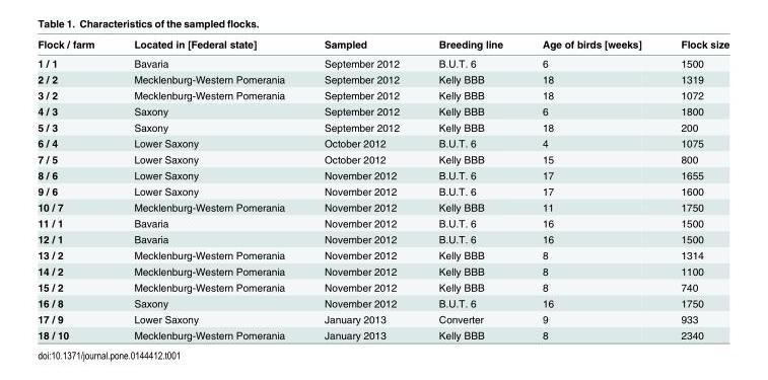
<table><thead><tr><td>Flock / farm</td><td>Located in [Federal state]</td><td>Sampled</td><td>Breeding line</td><td>Age of birds [weeks]</td><td>Flock size</td></tr></thead><tbody><tr><td>1 / 1</td><td>Bavaria</td><td>September 2012</td><td>B.U.T. 6</td><td>6</td><td>1500</td></tr><tr><td>2 / 2</td><td>Mecklenburg-Western Pomerania</td><td>September 2012</td><td>Kelly BBB</td><td>18</td><td>1319</td></tr><tr><td>3 / 2</td><td>Mecklenburg-Western Pomerania</td><td>September 2012</td><td>Kelly BBB</td><td>18</td><td>1072</td></tr><tr><td>4 / 3</td><td>Saxony</td><td>September 2012</td><td>Kelly BBB</td><td>6</td><td>1800</td></tr><tr><td>5 / 3</td><td>Saxony</td><td>September 2012</td><td>Kelly BBB</td><td>18</td><td>200</td></tr><tr><td>6 / 4</td><td>Lower Saxony</td><td>October 2012</td><td>B.U.T. 6</td><td>4</td><td>1075</td></tr><tr><td>7 / 5</td><td>Lower Saxony</td><td>October 2012</td><td>Kelly BBB</td><td>15</td><td>800</td></tr><tr><td>8 / 6</td><td>Lower Saxony</td><td>November 2012</td><td>B.U.T. 6</td><td>17</td><td>1655</td></tr><tr><td>9 / 6</td><td>Lower Saxony</td><td>November 2012</td><td>B.U.T. 6</td><td>17</td><td>1600</td></tr><tr><td>10 / 7</td><td>Mecklenburg-Western Pomerania</td><td>November 2012</td><td>Kelly BBB</td><td>11</td><td>1750</td></tr><tr><td>11 / 1</td><td>Bavaria</td><td>November 2012</td><td>B.U.T. 6</td><td>16</td><td>1500</td></tr><tr><td>12 / 1</td><td>Bavaria</td><td>November 2012</td><td>B.U.T. 6</td><td>16</td><td>1500</td></tr><tr><td>13 / 2</td><td>Mecklenburg-Western Pomerania</td><td>November 2012</td><td>Kelly BBB</td><td>8</td><td>1314</td></tr><tr><td>14 / 2</td><td>Mecklenburg-Western Pomerania</td><td>November 2012</td><td>Kelly BBB</td><td>8</td><td>1100</td></tr><tr><td>15 / 2</td><td>Mecklenburg-Western Pomerania</td><td>November 2012</td><td>Kelly BBB</td><td>8</td><td>740</td></tr><tr><td>16 / 8</td><td>Saxony</td><td>November 2012</td><td>B.U.T. 6</td><td>16</td><td>1750</td></tr><tr><td>17 / 9</td><td>Lower Saxony</td><td>January 2013</td><td>Converter</td><td>9</td><td>933</td></tr><tr><td>18 / 10</td><td>Mecklenburg-Western Pomerania</td><td>January 2013</td><td>Kelly BBB</td><td>8</td><td>2340</td></tr></tbody></table>